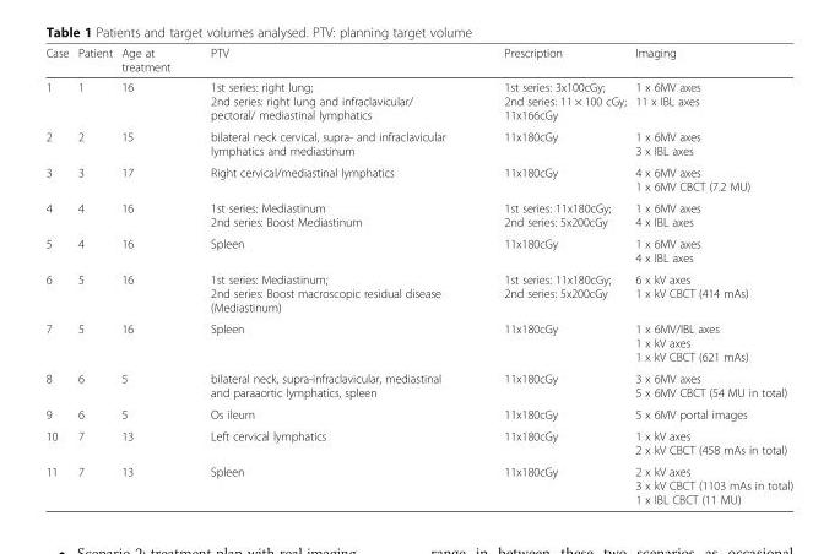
<table><thead><tr><td>Case</td><td>Patient</td><td>Age at treatment</td><td>PTV</td><td>Prescription</td><td>Imaging</td></tr></thead><tbody><tr><td>1</td><td>1</td><td>16</td><td>1st series: right lung; 2nd series: right lung and infraclavicular/ pectoral/ mediastinal lymphatics</td><td>1st series: 3x100cGy; 2nd series: 11 × 100 cGy; 11x166cGy</td><td>1 x 6MV axes 11 x IBL axes</td></tr><tr><td>2</td><td>2</td><td>15</td><td>bilateral neck cervical, supra- and infraclavicular lymphatics and mediastinum</td><td>11x180cGy</td><td>1 x 6MV axes 3 x IBL axes</td></tr><tr><td>3</td><td>3</td><td>17</td><td>Right cervical/mediastinal lymphatics</td><td>11x180cGy</td><td>4 x 6MV axes 1 x 6MV CBCT (7.2 MU)</td></tr><tr><td>4</td><td>4</td><td>16</td><td>1st series: Mediastinum 2nd series: Boost Mediastinum</td><td>1st series: 11x180cGy; 2nd series: 5x200cGy</td><td>1 x 6MV axes 4 x IBL axes</td></tr><tr><td>5</td><td>4</td><td>16</td><td>Spleen</td><td>11x180cGy</td><td>1 x 6MV axes 4 x IBL axes</td></tr><tr><td>6</td><td>5</td><td>16</td><td>1st series: Mediastinum; 2nd series: Boost macroscopic residual disease (Mediastinum)</td><td>1st series: 11x180cGy; 2nd series: 5x200cGy</td><td>6 x kV axes 1 x kV CBCT (414 mAs)</td></tr><tr><td>7</td><td>5</td><td>16</td><td>Spleen</td><td>11x180cGy</td><td>1 x 6MV/IBL axes 1 x kV axes 1 x kV CBCT (621 mAs)</td></tr><tr><td>8</td><td>6</td><td>5</td><td>bilateral neck, supra-infraclavicular, mediastinal and paraaortic lymphatics, spleen</td><td>11x180cGy</td><td>3 x 6MV axes 5 x 6MV CBCT (54 MU in total)</td></tr><tr><td>9</td><td>6</td><td>5</td><td>Os ileum</td><td>11x180cGy</td><td>5 x 6MV portal images</td></tr><tr><td>10</td><td>7</td><td>13</td><td>Left cervical lymphatics</td><td>11x180cGy</td><td>1 x kV axes 2 x kV CBCT (458 mAs in total)</td></tr><tr><td>11</td><td>7</td><td>13</td><td>Spleen</td><td>11x180cGy</td><td>2 x kV axes 3 x kV CBCT (1103 mAs in total) 1 x IBL CBCT (11 MU)</td></tr></tbody></table>